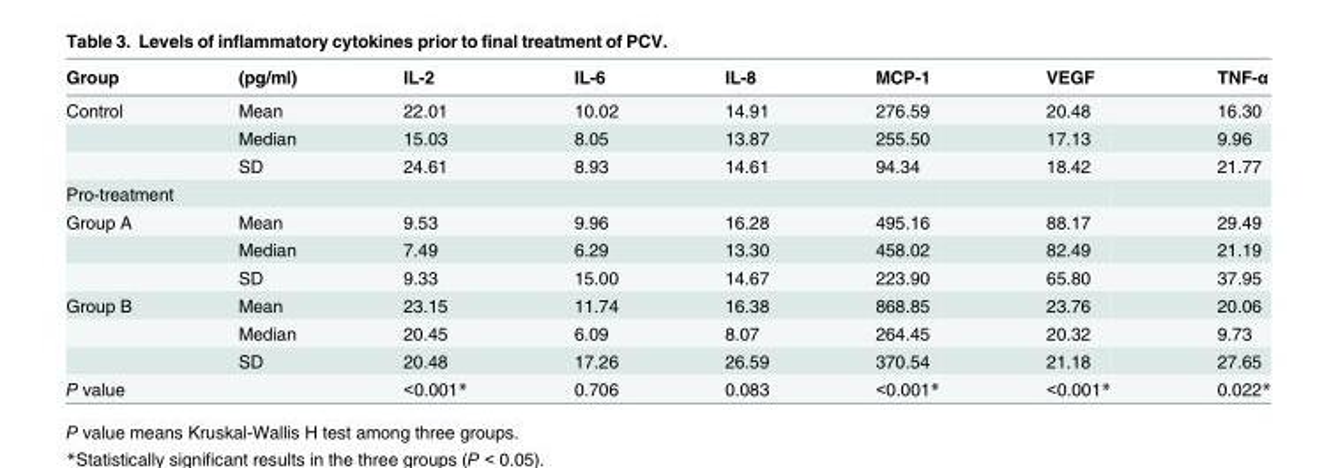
<table><thead><tr><td>Group</td><td>(pg/ml)</td><td>IL-2</td><td>IL-6</td><td>IL-8</td><td>MCP-1</td><td>VEGF</td><td>TNF-α</td></tr></thead><tbody><tr><td rowspan="3">Control</td><td>Mean</td><td>22.01</td><td>10.02</td><td>14.91</td><td>276.59</td><td>20.48</td><td>16.30</td></tr><tr><td>Median</td><td>15.03</td><td>8.05</td><td>13.87</td><td>255.50</td><td>17.13</td><td>9.96</td></tr><tr><td>SD</td><td>24.61</td><td>8.93</td><td>14.61</td><td>94.34</td><td>18.42</td><td>21.77</td></tr><tr><td colspan="8">Pro-treatment</td></tr><tr><td rowspan="3">Group A</td><td>Mean</td><td>9.53</td><td>9.96</td><td>16.28</td><td>495.16</td><td>88.17</td><td>29.49</td></tr><tr><td>Median</td><td>7.49</td><td>6.29</td><td>13.30</td><td>458.02</td><td>82.49</td><td>21.19</td></tr><tr><td>SD</td><td>9.33</td><td>15.00</td><td>14.67</td><td>223.90</td><td>65.80</td><td>37.95</td></tr><tr><td rowspan="3">Group B</td><td>Mean</td><td>23.15</td><td>11.74</td><td>16.38</td><td>868.85</td><td>23.76</td><td>20.06</td></tr><tr><td>Median</td><td>20.45</td><td>6.09</td><td>8.07</td><td>264.45</td><td>20.32</td><td>9.73</td></tr><tr><td>SD</td><td>20.48</td><td>17.26</td><td>26.59</td><td>370.54</td><td>21.18</td><td>27.65</td></tr><tr><td colspan="2">P value</td><td>&lt;0.001*</td><td>0.706</td><td>0.083</td><td>&lt;0.001*</td><td>&lt;0.001*</td><td>0.022*</td></tr></tbody></table>